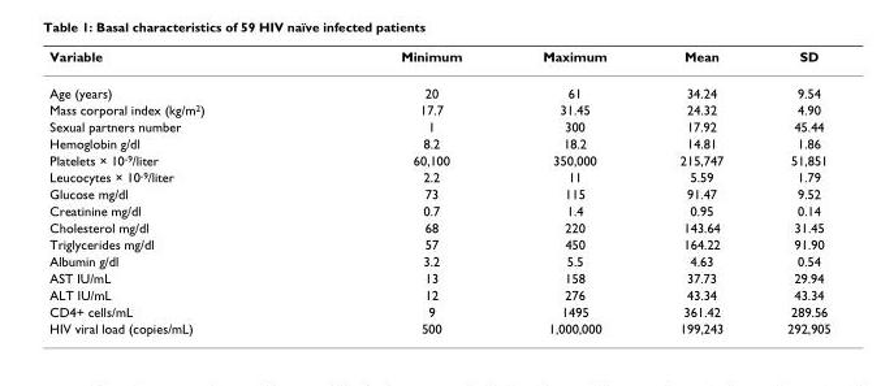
<table><thead><tr><td>Variable</td><td>Minimum</td><td>Maximum</td><td>Mean</td><td>SD</td></tr></thead><tbody><tr><td>Age (years)</td><td>20</td><td>61</td><td>34.24</td><td>9.54</td></tr><tr><td>Mass corporal index (kg/m<sup>2</sup>)</td><td>17.7</td><td>31.45</td><td>24.32</td><td>4.90</td></tr><tr><td>Sexual partners number</td><td>1</td><td>300</td><td>17.92</td><td>45.44</td></tr><tr><td>Hemoglobin g/dl</td><td>8.2</td><td>18.2</td><td>14.81</td><td>1.86</td></tr><tr><td>Platelets × 10<sup>-9</sup>/liter</td><td>60,100</td><td>350,000</td><td>215,747</td><td>51,851</td></tr><tr><td>Leucocytes × 10<sup>-9</sup>/liter</td><td>2.2</td><td>11</td><td>5.59</td><td>1.79</td></tr><tr><td>Glucose mg/dl</td><td>73</td><td>115</td><td>91.47</td><td>9.52</td></tr><tr><td>Creatinine mg/dl</td><td>0.7</td><td>1.4</td><td>0.95</td><td>0.14</td></tr><tr><td>Cholesterol mg/dl</td><td>68</td><td>220</td><td>143.64</td><td>31.45</td></tr><tr><td>Triglycerides mg/dl</td><td>57</td><td>450</td><td>164.22</td><td>91.90</td></tr><tr><td>Albumin g/dl</td><td>3.2</td><td>5.5</td><td>4.63</td><td>0.54</td></tr><tr><td>AST IU/mL</td><td>13</td><td>158</td><td>37.73</td><td>29.94</td></tr><tr><td>ALT IU/mL</td><td>12</td><td>276</td><td>43.34</td><td>43.34</td></tr><tr><td>CD4+ cells/mL</td><td>9</td><td>1495</td><td>361.42</td><td>289.56</td></tr><tr><td>HIV viral load (copies/mL)</td><td>500</td><td>1,000,000</td><td>199,243</td><td>292,905</td></tr></tbody></table>